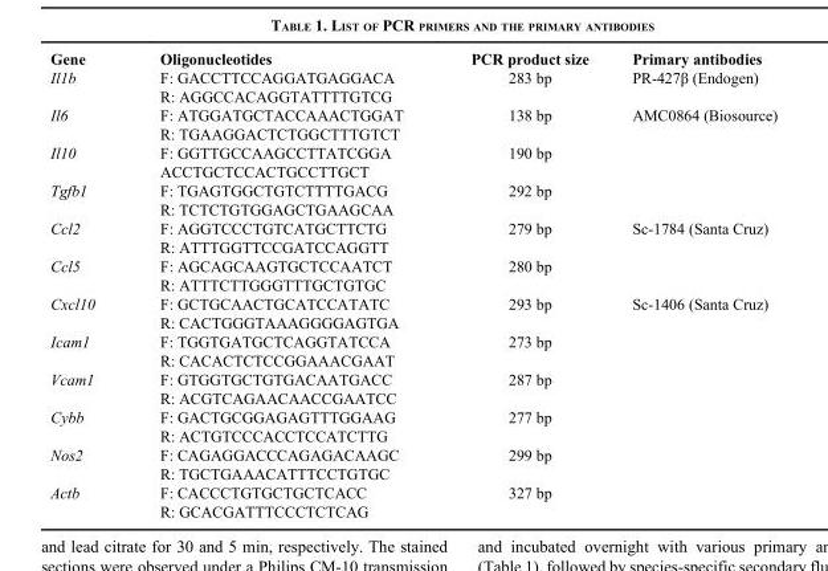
<table><thead><tr><td>Gene</td><td>Oligonucleotides</td><td>PCR product size</td><td>Primary antibodies</td></tr></thead><tbody><tr><td rowspan="2">Il1b</td><td>F: GACCTTCCAGGATGAGGACA</td><td>283 bp</td><td>PR-427β (Endogen)</td></tr><tr><td>R: AGGCCACAGGTATTTTGTCG</td><td></td><td></td></tr><tr><td rowspan="2">Il6</td><td>F: ATGGATGCTACCAAACTGGAT</td><td>138 bp</td><td>AMC0864 (Biosource)</td></tr><tr><td>R: TGAAGGACTCTGGCTTTGTCT</td><td></td><td></td></tr><tr><td rowspan="2">Il10</td><td>F: GGTTGCCAAGCCTTATCGGA</td><td>190 bp</td><td></td></tr><tr><td>ACCTGCTCCACTGCCTTGCT</td><td></td><td></td></tr><tr><td rowspan="2">Tgfb1</td><td>F: TGAGTGGCTGTCTTTTGACG</td><td>292 bp</td><td></td></tr><tr><td>R: TCTCTGTGGAGCTGAAGCAA</td><td></td><td></td></tr><tr><td rowspan="2">Ccl2</td><td>F: AGGTCCCTGTCATGCTTCTG</td><td>279 bp</td><td>Sc-1784 (Santa Cruz)</td></tr><tr><td>R: ATTTGGTTCCGATCCAGGTT</td><td></td><td></td></tr><tr><td rowspan="2">Ccl5</td><td>F: AGCAGCAAGTGCTCCAATCT</td><td>280 bp</td><td></td></tr><tr><td>R: ATTTCTTGGGTTTGCTGTGC</td><td></td><td></td></tr><tr><td rowspan="2">Cxcl10</td><td>F: GCTGCAACTGCATCCATATC</td><td>293 bp</td><td>Sc-1406 (Santa Cruz)</td></tr><tr><td>R: CACTGGGTAAAGGGGAGTGA</td><td></td><td></td></tr><tr><td rowspan="2">Icam1</td><td>F: TGGTGATGCTCAGGTATCCA</td><td>273 bp</td><td></td></tr><tr><td>R: CACACTCTCCGGAAACGAAT</td><td></td><td></td></tr><tr><td rowspan="2">Vcam1</td><td>F: GTGGTGCTGTGACAATGACC</td><td>287 bp</td><td></td></tr><tr><td>R: ACGTCAGAACAACCGAATCC</td><td></td><td></td></tr><tr><td rowspan="2">Cybb</td><td>F: GACTGCGGAGAGTTTGGAAG</td><td>277 bp</td><td></td></tr><tr><td>R: ACTGTCCCACCTCCATCTTG</td><td></td><td></td></tr><tr><td rowspan="2">Nos2</td><td>F: CAGAGGACCCAGAGACAAGC</td><td>299 bp</td><td></td></tr><tr><td>R: TGCTGAAACATTTCCTGTGC</td><td></td><td></td></tr><tr><td rowspan="2">Actb</td><td>F: CACCCTGTGCTGCTCACC</td><td>327 bp</td><td></td></tr><tr><td>R: GCACGATTTCCCTCTCAG</td><td></td><td></td></tr></tbody></table>